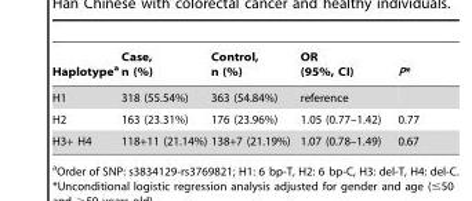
<table><thead><tr><td>Haplotype<sup>a</sup></td><td>Case, n (%)</td><td>Control, n (%)</td><td>OR (95%, CI)</td><td>P*</td></tr></thead><tbody><tr><td>H1</td><td>318 (55.54%)</td><td>363 (54.84%)</td><td>reference</td><td></td></tr><tr><td>H2</td><td>163 (23.31%)</td><td>176 (23.96%)</td><td>1.05 (0.77–1.42)</td><td>0.77</td></tr><tr><td>H3+ H4</td><td>118+11 (21.14%)</td><td>138+7 (21.19%)</td><td>1.07 (0.78–1.49)</td><td>0.67</td></tr></tbody></table>